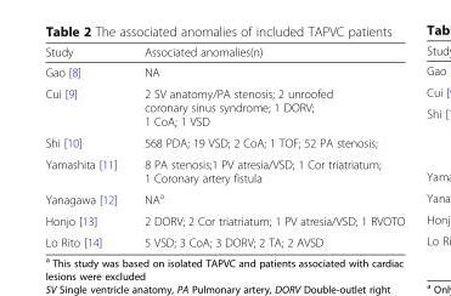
<table><thead><tr><td>Study</td><td>Associated anomalies(n)</td></tr></thead><tbody><tr><td>Gao [8]</td><td>NA</td></tr><tr><td>Cui [9]</td><td>2 SV anatomy/PA stenosis; 2 unroofed coronary sinus syndrome; 1 DORV; 1 CoA; 1 VSD</td></tr><tr><td>Shi [10]</td><td>568 PDA; 19 VSD; 2 CoA; 1 TOF; 52 PA stenosis;</td></tr><tr><td>Yamashita [11]</td><td>8 PA stenosis;1 PV atresia/VSD; 1 Cor triatriatum; 1 Coronary artery fistula</td></tr><tr><td>Yanagawa [12]</td><td>NA<sup>a</sup></td></tr><tr><td>Honjo [13]</td><td>2 DORV; 2 Cor triatriatum; 1 PV atresia/VSD; 1 RVOTO</td></tr><tr><td>Lo Rito [14]</td><td>5 VSD; 3 CoA; 3 DORV; 2 TA; 2 AVSD</td></tr></tbody></table>